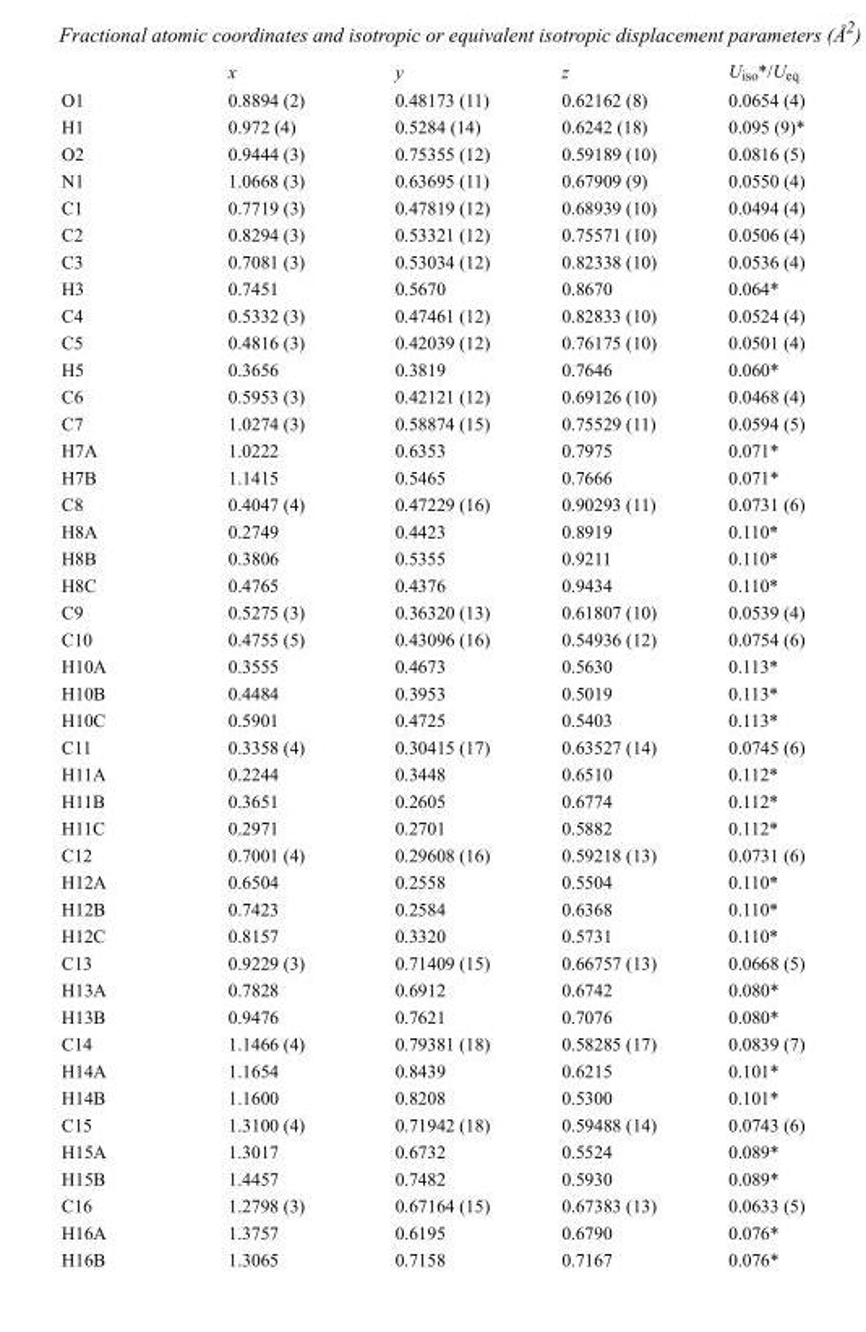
<table><thead><tr><td></td><td>x</td><td>y</td><td>z</td><td>U<sub>iso</sub>*/U<sub>eq</sub></td></tr></thead><tbody><tr><td>O1</td><td>0.8894 (2)</td><td>0.48173 (11)</td><td>0.62162 (8)</td><td>0.0654 (4)</td></tr><tr><td>H1</td><td>0.972 (4)</td><td>0.5284 (14)</td><td>0.6242 (18)</td><td>0.095 (9)*</td></tr><tr><td>O2</td><td>0.9444 (3)</td><td>0.75355 (12)</td><td>0.59189 (10)</td><td>0.0816 (5)</td></tr><tr><td>N1</td><td>1.0668 (3)</td><td>0.63695 (11)</td><td>0.67909 (9)</td><td>0.0550 (4)</td></tr><tr><td>C1</td><td>0.7719 (3)</td><td>0.47819 (12)</td><td>0.68939 (10)</td><td>0.0494 (4)</td></tr><tr><td>C2</td><td>0.8294 (3)</td><td>0.53321 (12)</td><td>0.75571 (10)</td><td>0.0506 (4)</td></tr><tr><td>C3</td><td>0.7081 (3)</td><td>0.53034 (12)</td><td>0.82338 (10)</td><td>0.0536 (4)</td></tr><tr><td>H3</td><td>0.7451</td><td>0.5670</td><td>0.8670</td><td>0.064*</td></tr><tr><td>C4</td><td>0.5332 (3)</td><td>0.47461 (12)</td><td>0.82833 (10)</td><td>0.0524 (4)</td></tr><tr><td>C5</td><td>0.4816 (3)</td><td>0.42039 (12)</td><td>0.76175 (10)</td><td>0.0501 (4)</td></tr><tr><td>H5</td><td>0.3656</td><td>0.3819</td><td>0.7646</td><td>0.060*</td></tr><tr><td>C6</td><td>0.5953 (3)</td><td>0.42121 (12)</td><td>0.69126 (10)</td><td>0.0468 (4)</td></tr><tr><td>C7</td><td>1.0274 (3)</td><td>0.58874 (15)</td><td>0.75529 (11)</td><td>0.0594 (5)</td></tr><tr><td>H7A</td><td>1.0222</td><td>0.6353</td><td>0.7975</td><td>0.071*</td></tr><tr><td>H7B</td><td>1.1415</td><td>0.5465</td><td>0.7666</td><td>0.071*</td></tr><tr><td>C8</td><td>0.4047 (4)</td><td>0.47229 (16)</td><td>0.90293 (11)</td><td>0.0731 (6)</td></tr><tr><td>H8A</td><td>0.2749</td><td>0.4423</td><td>0.8919</td><td>0.110*</td></tr><tr><td>H8B</td><td>0.3806</td><td>0.5355</td><td>0.9211</td><td>0.110*</td></tr><tr><td>H8C</td><td>0.4765</td><td>0.4376</td><td>0.9434</td><td>0.110*</td></tr><tr><td>C9</td><td>0.5275 (3)</td><td>0.36320 (13)</td><td>0.61807 (10)</td><td>0.0539 (4)</td></tr><tr><td>C10</td><td>0.4755 (5)</td><td>0.43096 (16)</td><td>0.54936 (12)</td><td>0.0754 (6)</td></tr><tr><td>H10A</td><td>0.3555</td><td>0.4673</td><td>0.5630</td><td>0.113*</td></tr><tr><td>H10B</td><td>0.4484</td><td>0.3953</td><td>0.5019</td><td>0.113*</td></tr><tr><td>H10C</td><td>0.5901</td><td>0.4725</td><td>0.5403</td><td>0.113*</td></tr><tr><td>C11</td><td>0.3358 (4)</td><td>0.30415 (17)</td><td>0.63527 (14)</td><td>0.0745 (6)</td></tr><tr><td>H11A</td><td>0.2244</td><td>0.3448</td><td>0.6510</td><td>0.112*</td></tr><tr><td>H11B</td><td>0.3651</td><td>0.2605</td><td>0.6774</td><td>0.112*</td></tr><tr><td>H11C</td><td>0.2971</td><td>0.2701</td><td>0.5882</td><td>0.112*</td></tr><tr><td>C12</td><td>0.7001 (4)</td><td>0.29608 (16)</td><td>0.59218 (13)</td><td>0.0731 (6)</td></tr><tr><td>H12A</td><td>0.6504</td><td>0.2558</td><td>0.5504</td><td>0.110*</td></tr><tr><td>H12B</td><td>0.7423</td><td>0.2584</td><td>0.6368</td><td>0.110*</td></tr><tr><td>H12C</td><td>0.8157</td><td>0.3320</td><td>0.5731</td><td>0.110*</td></tr><tr><td>C13</td><td>0.9229 (3)</td><td>0.71409 (15)</td><td>0.66757 (13)</td><td>0.0668 (5)</td></tr><tr><td>H13A</td><td>0.7828</td><td>0.6912</td><td>0.6742</td><td>0.080*</td></tr><tr><td>H13B</td><td>0.9476</td><td>0.7621</td><td>0.7076</td><td>0.080*</td></tr><tr><td>C14</td><td>1.1466 (4)</td><td>0.79381 (18)</td><td>0.58285 (17)</td><td>0.0839 (7)</td></tr><tr><td>H14A</td><td>1.1654</td><td>0.8439</td><td>0.6215</td><td>0.101*</td></tr><tr><td>H14B</td><td>1.1600</td><td>0.8208</td><td>0.5300</td><td>0.101*</td></tr><tr><td>C15</td><td>1.3100 (4)</td><td>0.71942 (18)</td><td>0.59488 (14)</td><td>0.0743 (6)</td></tr><tr><td>H15A</td><td>1.3017</td><td>0.6732</td><td>0.5524</td><td>0.089*</td></tr><tr><td>H15B</td><td>1.4457</td><td>0.7482</td><td>0.5930</td><td>0.089*</td></tr><tr><td>C16</td><td>1.2798 (3)</td><td>0.67164 (15)</td><td>0.67383 (13)</td><td>0.0633 (5)</td></tr><tr><td>H16A</td><td>1.3757</td><td>0.6195</td><td>0.6790</td><td>0.076*</td></tr><tr><td>H16B</td><td>1.3065</td><td>0.7158</td><td>0.7167</td><td>0.076*</td></tr></tbody></table>